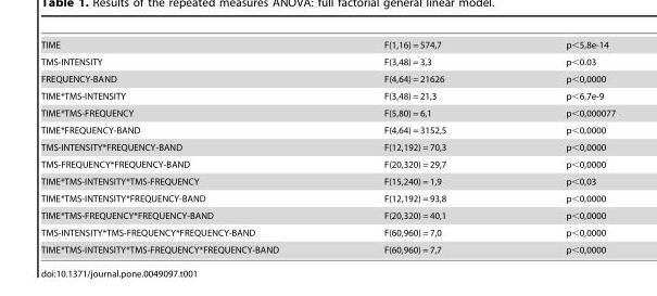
<table><tbody><tr><td>TIME</td><td>F(1,16) = 574,7</td><td>p&lt;5,8e-14</td></tr><tr><td>TMS-INTENSITY</td><td>F(3,48) = 3,3</td><td>p&lt;0.03</td></tr><tr><td>FREQUENCY-BAND</td><td>F(4,64) = 21626</td><td>p&lt;0,0000</td></tr><tr><td>TIME*TMS-INTENSITY</td><td>F(3,48) = 21,3</td><td>p&lt;6,7e-9</td></tr><tr><td>TIME*TMS-FREQUENCY</td><td>F(5,80) = 6,1</td><td>p&lt;0,000077</td></tr><tr><td>TIME*FREQUENCY-BAND</td><td>F(4,64) = 3152,5</td><td>p&lt;0,0000</td></tr><tr><td>TMS-INTENSITY*FREQUENCY-BAND</td><td>F(12,192) = 70,3</td><td>p&lt;0,0000</td></tr><tr><td>TMS-FREQUENCY*FREQUENCY-BAND</td><td>F(20,320) = 29,7</td><td>p&lt;0,0000</td></tr><tr><td>TIME*TMS-INTENSITY*TMS-FREQUENCY</td><td>F(15,240) = 1,9</td><td>p&lt;0,03</td></tr><tr><td>TIME*TMS-INTENSITY*FREQUENCY-BAND</td><td>F(12,192) = 93,8</td><td>p&lt;0,0000</td></tr><tr><td>TIME*TMS-FREQUENCY*FREQUENCY-BAND</td><td>F(20,320) = 40,1</td><td>p&lt;0,0000</td></tr><tr><td>TMS-INTENSITY*TMS-FREQUENCY*FREQUENCY-BAND</td><td>F(60,960) = 7,0</td><td>p&lt;0,0000</td></tr><tr><td>TIME*TMS-INTENSITY*TMS-FREQUENCY*FREQUENCY-BAND</td><td>F(60,960) = 7,7</td><td>p&lt;0,0000</td></tr></tbody></table>